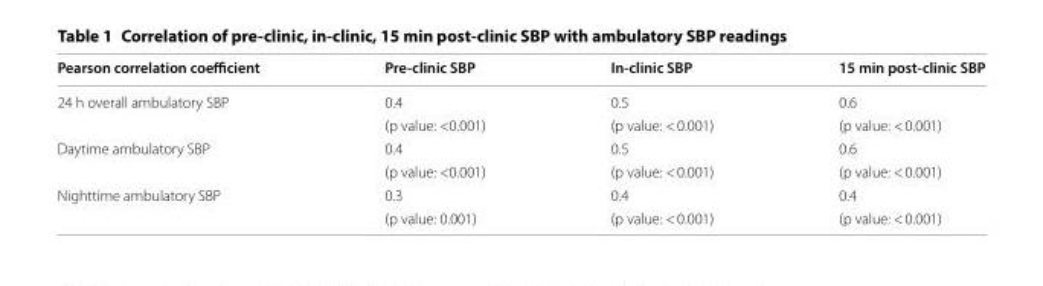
<table><thead><tr><td>Pearson correlation coefficient</td><td>Pre-clinic SBP</td><td>In-clinic SBP</td><td>15 min post-clinic SBP</td></tr></thead><tbody><tr><td rowspan="2">24 h overall ambulatory SBP</td><td>0.4</td><td>0.5</td><td>0.6</td></tr><tr><td>(p value: &lt;0.001)</td><td>(p value: &lt; 0.001)</td><td>(p value: &lt; 0.001)</td></tr><tr><td rowspan="2">Daytime ambulatory SBP</td><td>0.4</td><td>0.5</td><td>0.6</td></tr><tr><td>(p value: &lt;0.001)</td><td>(p value: &lt; 0.001)</td><td>(p value: &lt; 0.001)</td></tr><tr><td rowspan="2">Nighttime ambulatory SBP</td><td>0.3</td><td>0.4</td><td>0.4</td></tr><tr><td>(p value: 0.001)</td><td>(p value: &lt; 0.001)</td><td>(p value: &lt; 0.001)</td></tr></tbody></table>